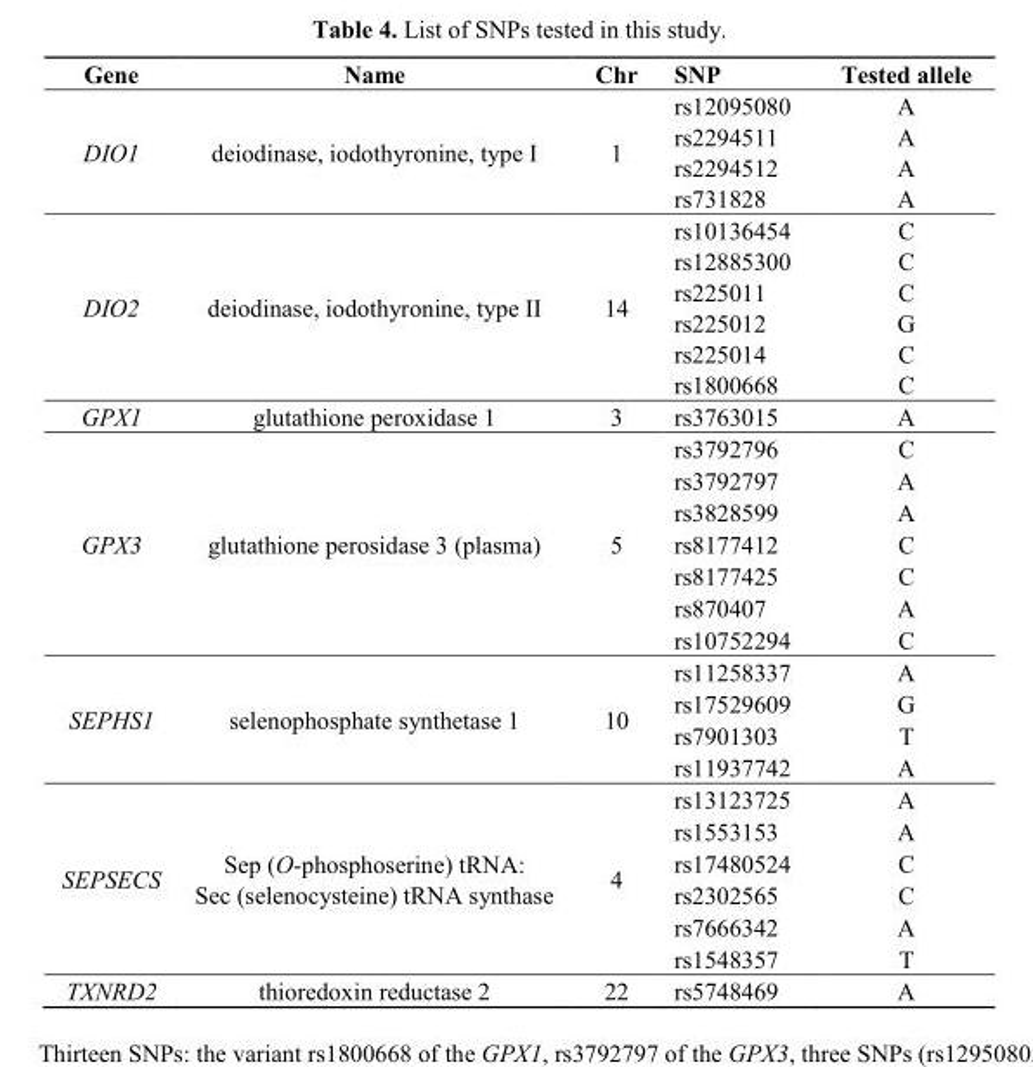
<table><thead><tr><td>Gene</td><td>Name</td><td>Chr</td><td>SNP</td><td>Tested allele</td></tr></thead><tbody><tr><td rowspan="4">DIO1</td><td rowspan="4">deiodinase, iodothyronine, type I</td><td rowspan="4">1</td><td>rs12095080</td><td>A</td></tr><tr><td>rs2294511</td><td>A</td></tr><tr><td>rs2294512</td><td>A</td></tr><tr><td>rs731828</td><td>A</td></tr><tr><td rowspan="6">DIO2</td><td rowspan="6">deiodinase, iodothyronine, type II</td><td rowspan="6">14</td><td>rs10136454</td><td>C</td></tr><tr><td>rs12885300</td><td>C</td></tr><tr><td>rs225011</td><td>C</td></tr><tr><td>rs225012</td><td>G</td></tr><tr><td>rs225014</td><td>C</td></tr><tr><td>rs1800668</td><td>C</td></tr><tr><td>GPX1</td><td>glutathione peroxidase 1</td><td>3</td><td>rs3763015</td><td>A</td></tr><tr><td rowspan="7">GPX3</td><td rowspan="7">glutathione perosidase 3 (plasma)</td><td rowspan="7">5</td><td>rs3792796</td><td>C</td></tr><tr><td>rs3792797</td><td>A</td></tr><tr><td>rs3828599</td><td>A</td></tr><tr><td>rs8177412</td><td>C</td></tr><tr><td>rs8177425</td><td>C</td></tr><tr><td>rs870407</td><td>A</td></tr><tr><td>rs10752294</td><td>C</td></tr><tr><td rowspan="4">SEPHS1</td><td rowspan="4">selenophosphate synthetase 1</td><td rowspan="4">10</td><td>rs11258337</td><td>A</td></tr><tr><td>rs17529609</td><td>G</td></tr><tr><td>rs7901303</td><td>T</td></tr><tr><td>rs11937742</td><td>A</td></tr><tr><td rowspan="6">SEPSECS</td><td rowspan="6">Sep (O-phosphoserine) tRNA: Sec (selenocysteine) tRNA synthase</td><td rowspan="6">4</td><td>rs13123725</td><td>A</td></tr><tr><td>rs1553153</td><td>A</td></tr><tr><td>rs17480524</td><td>C</td></tr><tr><td>rs2302565</td><td>C</td></tr><tr><td>rs7666342</td><td>A</td></tr><tr><td>rs1548357</td><td>T</td></tr><tr><td>TXNRD2</td><td>thioredoxin reductase 2</td><td>22</td><td>rs5748469</td><td>A</td></tr></tbody></table>